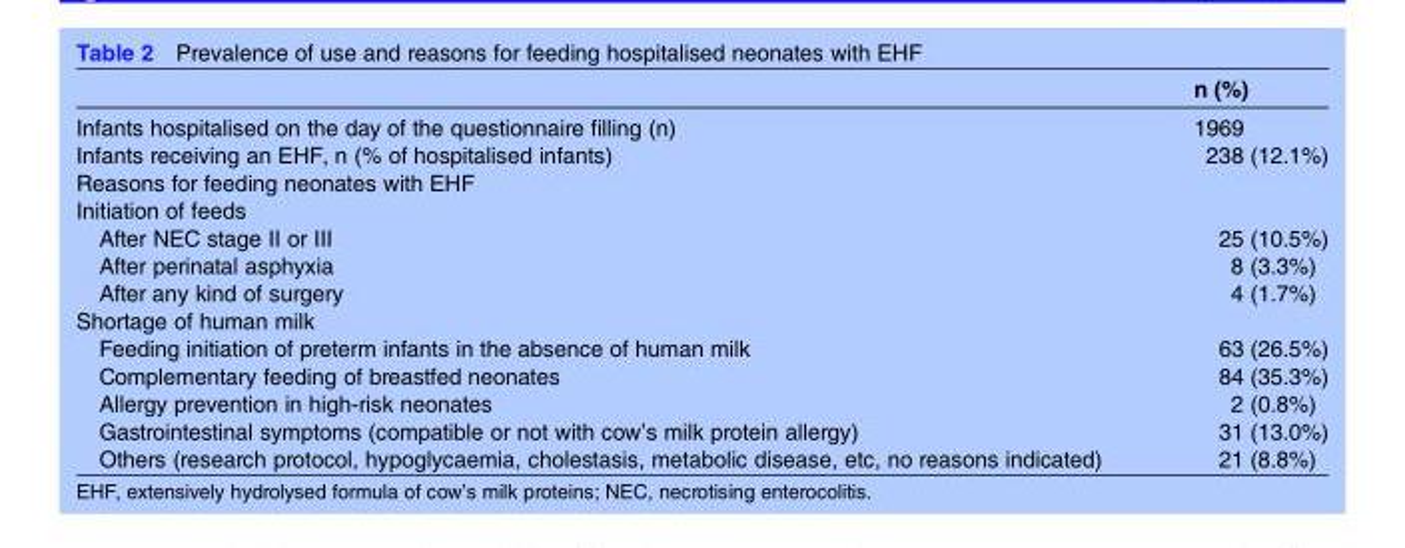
<table><thead><tr><td></td><td>n (%)</td></tr></thead><tbody><tr><td>Infants hospitalised on the day of the questionnaire filling (n)</td><td>1969</td></tr><tr><td>Infants receiving an EHF, n (% of hospitalised infants)</td><td>238 (12.1%)</td></tr><tr><td colspan="2">Reasons for feeding neonates with EHF</td></tr><tr><td colspan="2">Initiation of feeds</td></tr><tr><td>After NEC stage II or III</td><td>25 (10.5%)</td></tr><tr><td>After perinatal asphyxia</td><td>8 (3.3%)</td></tr><tr><td>After any kind of surgery</td><td>4 (1.7%)</td></tr><tr><td colspan="2">Shortage of human milk</td></tr><tr><td>Feeding initiation of preterm infants in the absence of human milk</td><td>63 (26.5%)</td></tr><tr><td>Complementary feeding of breastfed neonates</td><td>84 (35.3%)</td></tr><tr><td>Allergy prevention in high-risk neonates</td><td>2 (0.8%)</td></tr><tr><td>Gastrointestinal symptoms (compatible or not with cow’s milk protein allergy)</td><td>31 (13.0%)</td></tr><tr><td>Others (research protocol, hypoglycaemia, cholestasis, metabolic disease, etc, no reasons indicated)</td><td>21 (8.8%)</td></tr></tbody></table>